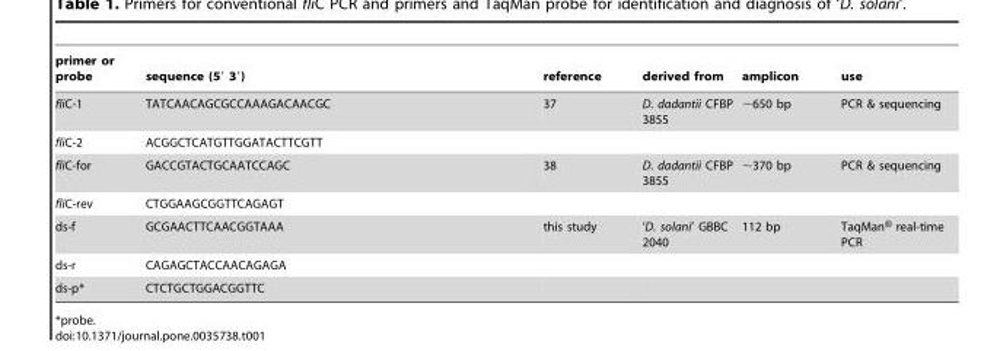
<table><thead><tr><td>primer or probe</td><td>sequence (5′ 3′)</td><td>reference</td><td>derived from</td><td>amplicon</td><td>use</td></tr></thead><tbody><tr><td>fliC-1</td><td>TATCAACAGCGCCAAAGACAACGC</td><td>37</td><td>D. dadantii CFBP 3855</td><td>∼650 bp</td><td>PCR &amp; sequencing</td></tr><tr><td>fliC-2</td><td>ACGGCTCATGTTGGATACTTCGTT</td><td></td><td></td><td></td><td></td></tr><tr><td>fliC-for</td><td>GACCGTACTGCAATCCAGC</td><td>38</td><td>D. dadantii CFBP 3855</td><td>∼370 bp</td><td>PCR &amp; sequencing</td></tr><tr><td>fliC-rev</td><td>CTGGAAGCGGTTCAGAGT</td><td></td><td></td><td></td><td></td></tr><tr><td>ds-f</td><td>GCGAACTTCAACGGTAAA</td><td>this study</td><td>‘D. solani’ GBBC 2040</td><td>112 bp</td><td>TaqMan® real-time PCR</td></tr><tr><td>ds-r</td><td>CAGAGCTACCAACAGAGA</td><td></td><td></td><td></td><td></td></tr><tr><td>ds-p*</td><td>CTCTGCTGGACGGTTC</td><td></td><td></td><td></td><td></td></tr></tbody></table>